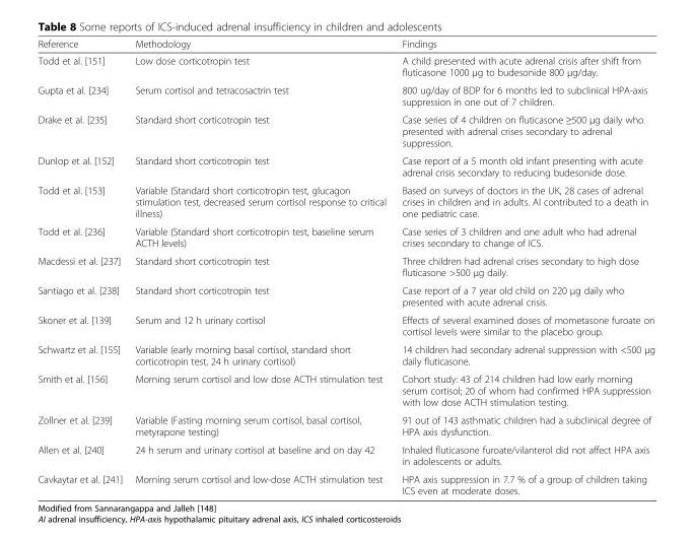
<table><thead><tr><td>Reference</td><td>Methodology</td><td>Findings</td></tr></thead><tbody><tr><td>Todd et al. [151]</td><td>Low dose corticotropin test</td><td>A child presented with acute adrenal crisis after shift from fluticasone 1000 μg to budesonide 800 μg/day.</td></tr><tr><td>Gupta et al. [234]</td><td>Serum cortisol and tetracosactrin test</td><td>800 ug/day of BDP for 6 months led to subclinical HPA-axis suppression in one out of 7 children.</td></tr><tr><td>Drake et al. [235]</td><td>Standard short corticotropin test</td><td>Case series of 4 children on fluticasone ≥500 μg daily who presented with adrenal crises secondary to adrenal suppression.</td></tr><tr><td>Dunlop et al. [152]</td><td>Standard short corticotropin test</td><td>Case report of a 5 month old infant presenting with acute adrenal crisis secondary to reducing budesonide dose.</td></tr><tr><td>Todd et al. [153]</td><td>Variable (Standard short corticotropin test, glucagon stimulation test, decreased serum cortisol response to critical illness)</td><td>Based on surveys of doctors in the UK, 28 cases of adrenal crises in children and in adults. AI contributed to a death in one pediatric case.</td></tr><tr><td>Todd et al. [236]</td><td>Variable (Standard short corticotropin test, baseline serum ACTH levels)</td><td>Case series of 3 children and one adult who had adrenal crises secondary to change of ICS.</td></tr><tr><td>Macdessi et al. [237]</td><td>Standard short corticotropin test</td><td>Three children had adrenal crises secondary to high dose fluticasone &gt;500 μg daily.</td></tr><tr><td>Santiago et al. [238]</td><td>Standard short corticotropin test</td><td>Case report of a 7 year old child on 220 μg daily who presented with acute adrenal crisis.</td></tr><tr><td>Skoner et al. [139]</td><td>Serum and 12 h urinary cortisol</td><td>Effects of several examined doses of mometasone furoate on cortisol levels were similar to the placebo group.</td></tr><tr><td>Schwartz et al. [155]</td><td>Variable (early morning basal cortisol, standard short corticotropin test, 24 h urinary cortisol)</td><td>14 children had secondary adrenal suppression with &lt;500 μg daily fluticasone.</td></tr><tr><td>Smith et al. [156]</td><td>Morning serum cortisol and low dose ACTH stimulation test</td><td>Cohort study: 43 of 214 children had low early morning serum cortisol; 20 of whom had confirmed HPA suppression with low dose ACTH stimulation testing.</td></tr><tr><td>Zollner et al. [239]</td><td>Variable (Fasting morning serum cortisol, basal cortisol, metyrapone testing)</td><td>91 out of 143 asthmatic children had a subclinical degree of HPA axis dysfunction.</td></tr><tr><td>Allen et al. [240]</td><td>24 h serum and urinary cortisol at baseline and on day 42</td><td>Inhaled fluticasone furoate/vilanterol did not affect HPA axis in adolescents or adults.</td></tr><tr><td>Cavkaytar et al. [241]</td><td>Morning serum cortisol and low-dose ACTH stimulation test</td><td>HPA axis suppression in 7.7 % of a group of children taking ICS even at moderate doses.</td></tr></tbody></table>